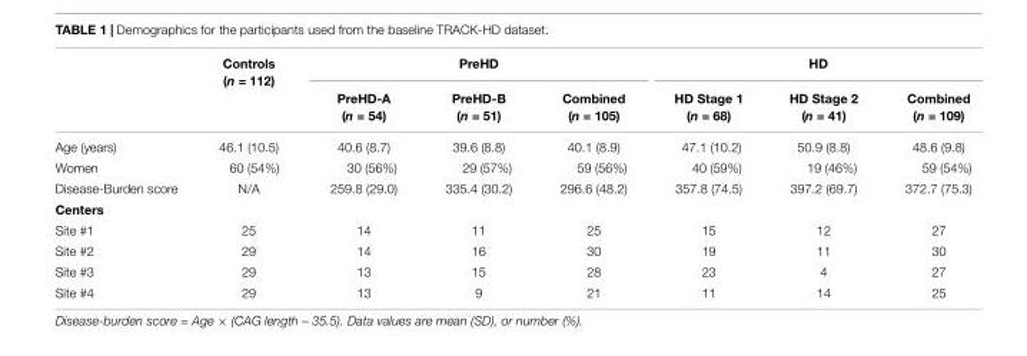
<table><thead><tr><td rowspan="2"></td><td rowspan="2">Controls (n = 112)</td><td colspan="3">PreHD</td><td colspan="3">HD</td></tr><tr><td>PreHD-A (n = 54)</td><td>PreHD-B (n = 51)</td><td>Combined (n = 105)</td><td>HD Stage 1 (n = 68)</td><td>HD Stage 2 (n = 41)</td><td>Combined (n = 109)</td></tr></thead><tbody><tr><td>Age (years)</td><td>46.1 (10.5)</td><td>40.6 (8.7)</td><td>39.6 (8.8)</td><td>40.1 (8.9)</td><td>47.1 (10.2)</td><td>50.9 (8.8)</td><td>48.6 (9.8)</td></tr><tr><td>Women</td><td>60 (54%)</td><td>30 (56%)</td><td>29 (57%)</td><td>59 (56%)</td><td>40 (59%)</td><td>19 (46%)</td><td>59 (54%)</td></tr><tr><td>Disease-Burden score</td><td>N/A</td><td>259.8 (29.0)</td><td>335.4 (30.2)</td><td>296.6 (48.2)</td><td>357.8 (74.5)</td><td>397.2 (69.7)</td><td>372.7 (75.3)</td></tr><tr><td colspan="8">Centers</td></tr><tr><td>Site #1</td><td>25</td><td>14</td><td>11</td><td>25</td><td>15</td><td>12</td><td>27</td></tr><tr><td>Site #2</td><td>29</td><td>14</td><td>16</td><td>30</td><td>19</td><td>11</td><td>30</td></tr><tr><td>Site #3</td><td>29</td><td>13</td><td>15</td><td>28</td><td>23</td><td>4</td><td>27</td></tr><tr><td>Site #4</td><td>29</td><td>13</td><td>9</td><td>21</td><td>11</td><td>14</td><td>25</td></tr></tbody></table>